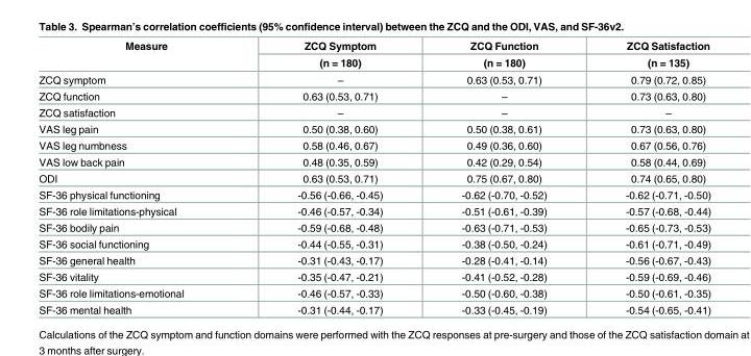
<table><thead><tr><td rowspan="2">Measure</td><td rowspan="2">ZCQ Symptom (n = 180)</td><td rowspan="2">ZCQ Function (n = 180)</td><td rowspan="2">ZCQ Satisfaction (n = 135)</td></tr><tr></tr></thead><tbody><tr><td>ZCQ symptom</td><td>–</td><td>0.63 (0.53, 0.71)</td><td>0.79 (0.72, 0.85)</td></tr><tr><td>ZCQ function</td><td>0.63 (0.53, 0.71)</td><td>–</td><td>0.73 (0.63, 0.80)</td></tr><tr><td>ZCQ satisfaction</td><td>–</td><td>–</td><td>–</td></tr><tr><td>VAS leg pain</td><td>0.50 (0.38, 0.60)</td><td>0.50 (0.38, 0.61)</td><td>0.73 (0.63, 0.80)</td></tr><tr><td>VAS leg numbness</td><td>0.58 (0.46, 0.67)</td><td>0.49 (0.36, 0.60)</td><td>0.67 (0.56, 0.76)</td></tr><tr><td>VAS low back pain</td><td>0.48 (0.35, 0.59)</td><td>0.42 (0.29, 0.54)</td><td>0.58 (0.44, 0.69)</td></tr><tr><td>ODI</td><td>0.63 (0.53, 0.71)</td><td>0.75 (0.67, 0.80)</td><td>0.74 (0.65, 0.80)</td></tr><tr><td>SF-36 physical functioning</td><td>-0.56 (-0.66, -0.45)</td><td>-0.62 (-0.70, -0.52)</td><td>-0.62 (-0.71, -0.50)</td></tr><tr><td>SF-36 role limitations-physical</td><td>-0.46 (-0.57, -0.34)</td><td>-0.51 (-0.61, -0.39)</td><td>-0.57 (-0.68, -0.44)</td></tr><tr><td>SF-36 bodily pain</td><td>-0.59 (-0.68, -0.48)</td><td>-0.63 (-0.71, -0.53)</td><td>-0.65 (-0.73, -0.53)</td></tr><tr><td>SF-36 social functioning</td><td>-0.44 (-0.55, -0.31)</td><td>-0.38 (-0.50, -0.24)</td><td>-0.61 (-0.71, -0.49)</td></tr><tr><td>SF-36 general health</td><td>-0.31 (-0.43, -0.17)</td><td>-0.28 (-0.41, -0.14)</td><td>-0.56 (-0.67, -0.43)</td></tr><tr><td>SF-36 vitality</td><td>-0.35 (-0.47, -0.21)</td><td>-0.41 (-0.52, -0.28)</td><td>-0.59 (-0.69, -0.46)</td></tr><tr><td>SF-36 role limitations-emotional</td><td>-0.46 (-0.57, -0.33)</td><td>-0.50 (-0.60, -0.38)</td><td>-0.50 (-0.61, -0.35)</td></tr><tr><td>SF-36 mental health</td><td>-0.31 (-0.44, -0.17)</td><td>-0.33 (-0.45, -0.19)</td><td>-0.54 (-0.65, -0.41)</td></tr></tbody></table>